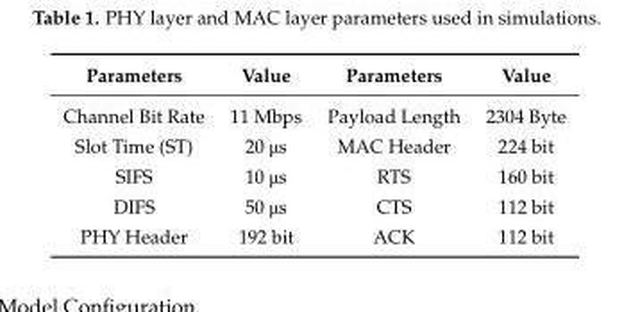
<table><thead><tr><td>Parameters</td><td>Value</td><td>Parameters</td><td>Value</td></tr></thead><tbody><tr><td>Channel Bit Rate</td><td>11 Mbps</td><td>Payload Length</td><td>2304 Byte</td></tr><tr><td>Slot Time (ST)</td><td>20 µs</td><td>MAC Header</td><td>224 bit</td></tr><tr><td>SIFS</td><td>10 µs</td><td>RTS</td><td>160 bit</td></tr><tr><td>DIFS</td><td>50 µs</td><td>CTS</td><td>112 bit</td></tr><tr><td>PHY Header</td><td>192 bit</td><td>ACK</td><td>112 bit</td></tr></tbody></table>